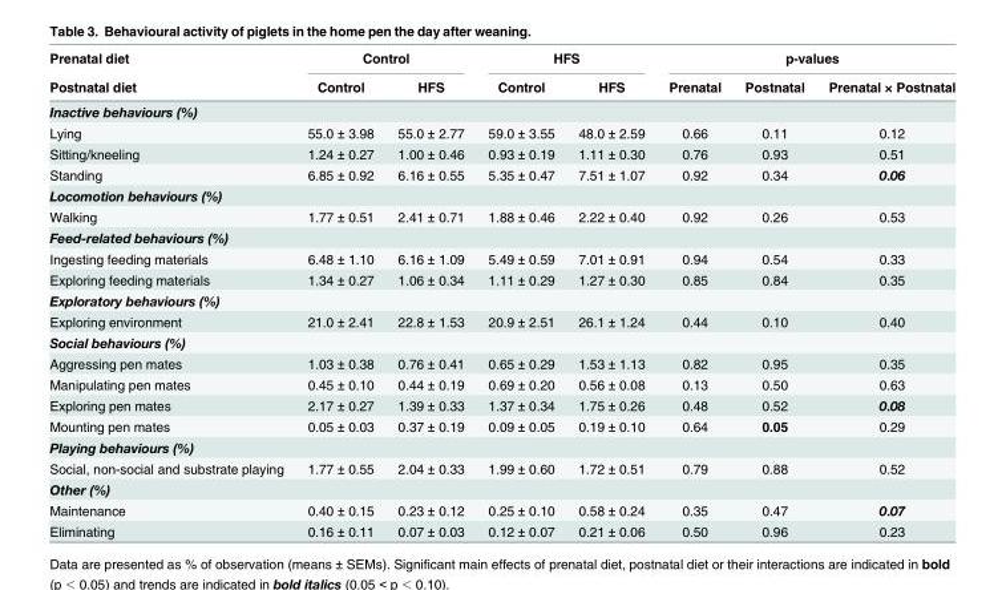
<table><thead><tr><td rowspan="2">Prenatal diet Postnatal diet</td><td colspan="2">Control</td><td colspan="2">HFS</td><td colspan="3">p-values</td></tr><tr><td>Control</td><td>HFS</td><td>Control</td><td>HFS</td><td>Prenatal</td><td>Postnatal</td><td>Prenatal × Postnatal</td></tr></thead><tbody><tr><td colspan="8">Inactive behaviours (%)</td></tr><tr><td>Lying</td><td>55.0 ± 3.98</td><td>55.0 ± 2.77</td><td>59.0 ± 3.55</td><td>48.0 ± 2.59</td><td>0.66</td><td>0.11</td><td>0.12</td></tr><tr><td>Sitting/kneeling</td><td>1.24 ± 0.27</td><td>1.00 ± 0.46</td><td>0.93 ± 0.19</td><td>1.11 ± 0.30</td><td>0.76</td><td>0.93</td><td>0.51</td></tr><tr><td>Standing</td><td>6.85 ± 0.92</td><td>6.16 ± 0.55</td><td>5.35 ± 0.47</td><td>7.51 ± 1.07</td><td>0.92</td><td>0.34</td><td>0.06</td></tr><tr><td colspan="8">Locomotion behaviours (%)</td></tr><tr><td>Walking</td><td>1.77 ± 0.51</td><td>2.41 ± 0.71</td><td>1.88 ± 0.46</td><td>2.22 ± 0.40</td><td>0.92</td><td>0.26</td><td>0.53</td></tr><tr><td colspan="8">Feed-related behaviours (%)</td></tr><tr><td>Ingesting feeding materials</td><td>6.48 ± 1.10</td><td>6.16 ± 1.09</td><td>5.49 ± 0.59</td><td>7.01 ± 0.91</td><td>0.94</td><td>0.54</td><td>0.33</td></tr><tr><td>Exploring feeding materials</td><td>1.34 ± 0.27</td><td>1.06 ± 0.34</td><td>1.11 ± 0.29</td><td>1.27 ± 0.30</td><td>0.85</td><td>0.84</td><td>0.35</td></tr><tr><td colspan="8">Exploratory behaviours (%)</td></tr><tr><td>Exploring environment</td><td>21.0 ± 2.41</td><td>22.8 ± 1.53</td><td>20.9 ± 2.51</td><td>26.1 ± 1.24</td><td>0.44</td><td>0.10</td><td>0.40</td></tr><tr><td colspan="8">Social behaviours (%)</td></tr><tr><td>Aggressing pen mates</td><td>1.03 ± 0.38</td><td>0.76 ± 0.41</td><td>0.65 ± 0.29</td><td>1.53 ± 1.13</td><td>0.82</td><td>0.95</td><td>0.35</td></tr><tr><td>Manipulating pen mates</td><td>0.45 ± 0.10</td><td>0.44 ± 0.19</td><td>0.69 ± 0.20</td><td>0.56 ± 0.08</td><td>0.13</td><td>0.50</td><td>0.63</td></tr><tr><td>Exploring pen mates</td><td>2.17 ± 0.27</td><td>1.39 ± 0.33</td><td>1.37 ± 0.34</td><td>1.75 ± 0.26</td><td>0.48</td><td>0.52</td><td>0.08</td></tr><tr><td>Mounting pen mates</td><td>0.05 ± 0.03</td><td>0.37 ± 0.19</td><td>0.09 ± 0.05</td><td>0.19 ± 0.10</td><td>0.64</td><td>0.05</td><td>0.29</td></tr><tr><td colspan="8">Playing behaviours (%)</td></tr><tr><td>Social, non-social and substrate playing</td><td>1.77 ± 0.55</td><td>2.04 ± 0.33</td><td>1.99 ± 0.60</td><td>1.72 ± 0.51</td><td>0.79</td><td>0.88</td><td>0.52</td></tr><tr><td colspan="8">Other (%)</td></tr><tr><td>Maintenance</td><td>0.40 ± 0.15</td><td>0.23 ± 0.12</td><td>0.25 ± 0.10</td><td>0.58 ± 0.24</td><td>0.35</td><td>0.47</td><td>0.07</td></tr><tr><td>Eliminating</td><td>0.16 ± 0.11</td><td>0.07 ± 0.03</td><td>0.12 ± 0.07</td><td>0.21 ± 0.06</td><td>0.50</td><td>0.96</td><td>0.23</td></tr></tbody></table>